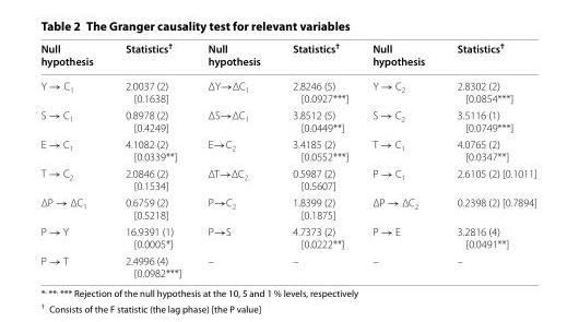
<table><thead><tr><td>Null hypothesis</td><td>Statistics<sup>†</sup></td><td>Null hypothesis</td><td>Statistics<sup>†</sup></td><td>Null hypothesis</td><td>Statistics<sup>†</sup></td></tr></thead><tbody><tr><td>Y → C<sub>1</sub></td><td>2.0037 (2) [0.1638]</td><td>ΔY→ΔC<sub>1</sub></td><td>2.8246 (5) [0.0927***]</td><td>Y → C<sub>2</sub></td><td>2.8302 (2) [0.0854***]</td></tr><tr><td>S → C<sub>1</sub></td><td>0.8978 (2) [0.4249]</td><td>ΔS→ΔC<sub>1</sub></td><td>3.8512 (5) [0.0449**]</td><td>S → C<sub>2</sub></td><td>3.5116 (1) [0.0749***]</td></tr><tr><td>E → C<sub>1</sub></td><td>4.1082 (2) [0.0339**]</td><td>E→C<sub>2</sub></td><td>3.4185 (2) [0.0552***]</td><td>T → C<sub>1</sub></td><td>4.0765 (2) [0.0347**]</td></tr><tr><td>T → C<sub>2</sub></td><td>2.0846 (2) [0.1534]</td><td>ΔT→ΔC<sub>2</sub></td><td>0.5987 (2) [0.5607]</td><td>P → C<sub>1</sub></td><td>2.6105 (2) [0.1011]</td></tr><tr><td>ΔP → ΔC<sub>1</sub></td><td>0.6759 (2) [0.5218]</td><td>P→C<sub>2</sub></td><td>1.8399 (2) [0.1875]</td><td>ΔP → ΔC<sub>2</sub></td><td>0.2398 (2) [0.7894]</td></tr><tr><td>P → Y</td><td>16.9391 (1) [0.0005*]</td><td>P→S</td><td>4.7373 (2) [0.0222**]</td><td>P → E</td><td>3.2816 (4) [0.0491**]</td></tr><tr><td>P → T</td><td>2.4996 (4) [0.0982***]</td><td>–</td><td>–</td><td>–</td><td>–</td></tr></tbody></table>